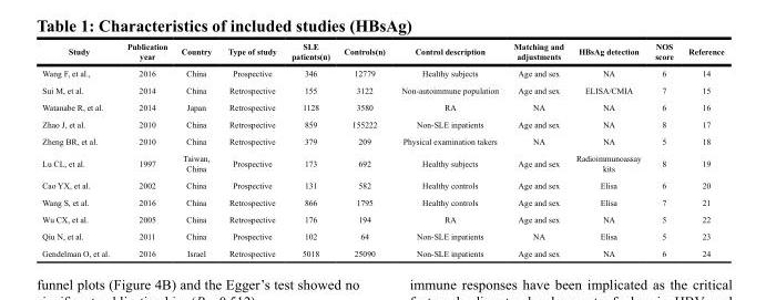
<table><thead><tr><td>Study</td><td>Publication year</td><td>Country</td><td>Type of study</td><td>SLE patients(n)</td><td>Controls(n)</td><td>Control description</td><td>Matching and adjustments</td><td>HBsAg detection</td><td>NOS score</td><td>Reference</td></tr></thead><tbody><tr><td>Wang F, et al.,</td><td>2016</td><td>China</td><td>Prospective</td><td>346</td><td>12779</td><td>Healthy subjects</td><td>Age and sex</td><td>NA</td><td>6</td><td>14</td></tr><tr><td>Sui M, et al.</td><td>2014</td><td>China</td><td>Retrospective</td><td>155</td><td>3122</td><td>Non-autoimmune population</td><td>Age and sex</td><td>ELISA/CMIA</td><td>7</td><td>15</td></tr><tr><td>Watanabe R, et al.</td><td>2014</td><td>Japan</td><td>Retrospective</td><td>1128</td><td>3580</td><td>RA</td><td>NA</td><td>NA</td><td>6</td><td>16</td></tr><tr><td>Zhao J, et al.</td><td>2010</td><td>China</td><td>Retrospective</td><td>859</td><td>155222</td><td>Non-SLE inpatients</td><td>Age and sex</td><td>NA</td><td>8</td><td>17</td></tr><tr><td>Zheng BR, et al.</td><td>2010</td><td>China</td><td>Retrospective</td><td>379</td><td>209</td><td>Physical examination takers</td><td>NA</td><td>NA</td><td>5</td><td>18</td></tr><tr><td>Lu CL, et al.</td><td>1997</td><td>Taiwan, China</td><td>Prospective</td><td>173</td><td>692</td><td>Healthy subjects</td><td>Age and sex</td><td>Radioimmunoassay kits</td><td>8</td><td>19</td></tr><tr><td>Cao YX, et al.</td><td>2002</td><td>China</td><td>Prospective</td><td>131</td><td>582</td><td>Healthy controls</td><td>Age and sex</td><td>Elisa</td><td>6</td><td>20</td></tr><tr><td>Wang S, et al.</td><td>2016</td><td>China</td><td>Retrospective</td><td>866</td><td>1795</td><td>Healthy controls</td><td>Age and sex</td><td>Elisa</td><td>7</td><td>21</td></tr><tr><td>Wu CX, et al.</td><td>2005</td><td>China</td><td>Retrospective</td><td>176</td><td>194</td><td>RA</td><td>Age and sex</td><td>NA</td><td>5</td><td>22</td></tr><tr><td>Qiu N, et al.</td><td>2011</td><td>China</td><td>Prospective</td><td>102</td><td>64</td><td>Non-SLE inpatients</td><td>NA</td><td>Elisa</td><td>5</td><td>23</td></tr><tr><td>Gendelman O, et al.</td><td>2016</td><td>Israel</td><td>Retrospective</td><td>5018</td><td>25090</td><td>Non-SLE inpatients</td><td>Age and sex</td><td>NA</td><td>6</td><td>24</td></tr></tbody></table>